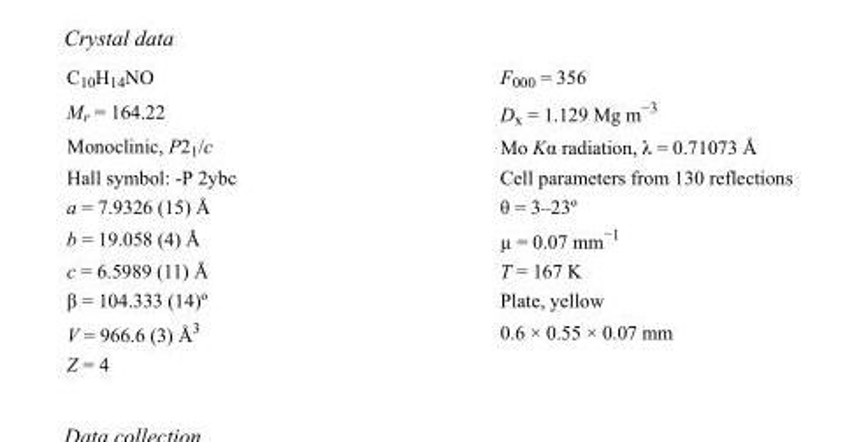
<table><tbody><tr><td>C<sub>10</sub>H<sub>14</sub>NO</td><td>F000 = 356</td></tr><tr><td>M<sub>r</sub> = 164.22</td><td>D<sub>x</sub> = 1.129 Mg m<sup>−3</sup></td></tr><tr><td>Monoclinic, P2<sub>1</sub>/c</td><td>Mo Kα radiation, λ = 0.71073 Å</td></tr><tr><td>Hall symbol: -P 2ybc</td><td>Cell parameters from 130 reflections</td></tr><tr><td>a = 7.9326 (15) Å</td><td>θ = 3–23º</td></tr><tr><td>b = 19.058 (4) Å</td><td>µ = 0.07 mm<sup>−1</sup></td></tr><tr><td>c = 6.5989 (11) Å</td><td>T = 167 K</td></tr><tr><td>β = 104.333 (14)º</td><td>Plate, yellow</td></tr><tr><td>V = 966.6 (3) Å<sup>3</sup></td><td>0.6 × 0.55 × 0.07 mm</td></tr><tr><td>Z = 4</td><td></td></tr></tbody></table>